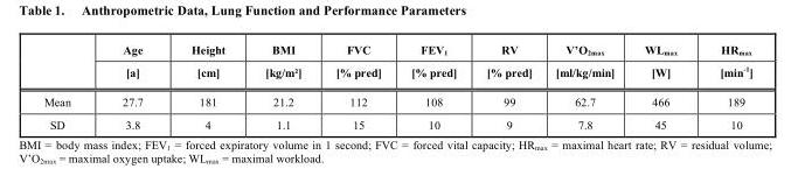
<table><thead><tr><td rowspan="2"></td><td rowspan="2">Age [a]</td><td rowspan="2">Height [cm]</td><td rowspan="2">BMI [kg/m<sup>2</sup>]</td><td rowspan="2">FVC [% pred]</td><td rowspan="2">FEV<sub>1</sub> [% pred]</td><td rowspan="2">RV [% pred]</td><td rowspan="2">V’O<sub>2max</sub> [ml/kg/min]</td><td rowspan="2">WL<sub>max</sub> [W]</td><td rowspan="2">HR<sub>max</sub> [min<sup>-1</sup>]</td></tr><tr></tr></thead><tbody><tr><td>Mean</td><td>27.7</td><td>181</td><td>21.2</td><td>112</td><td>108</td><td>99</td><td>62.7</td><td>466</td><td>189</td></tr><tr><td>SD</td><td>3.8</td><td>4</td><td>1.1</td><td>15</td><td>10</td><td>9</td><td>7.8</td><td>45</td><td>10</td></tr></tbody></table>